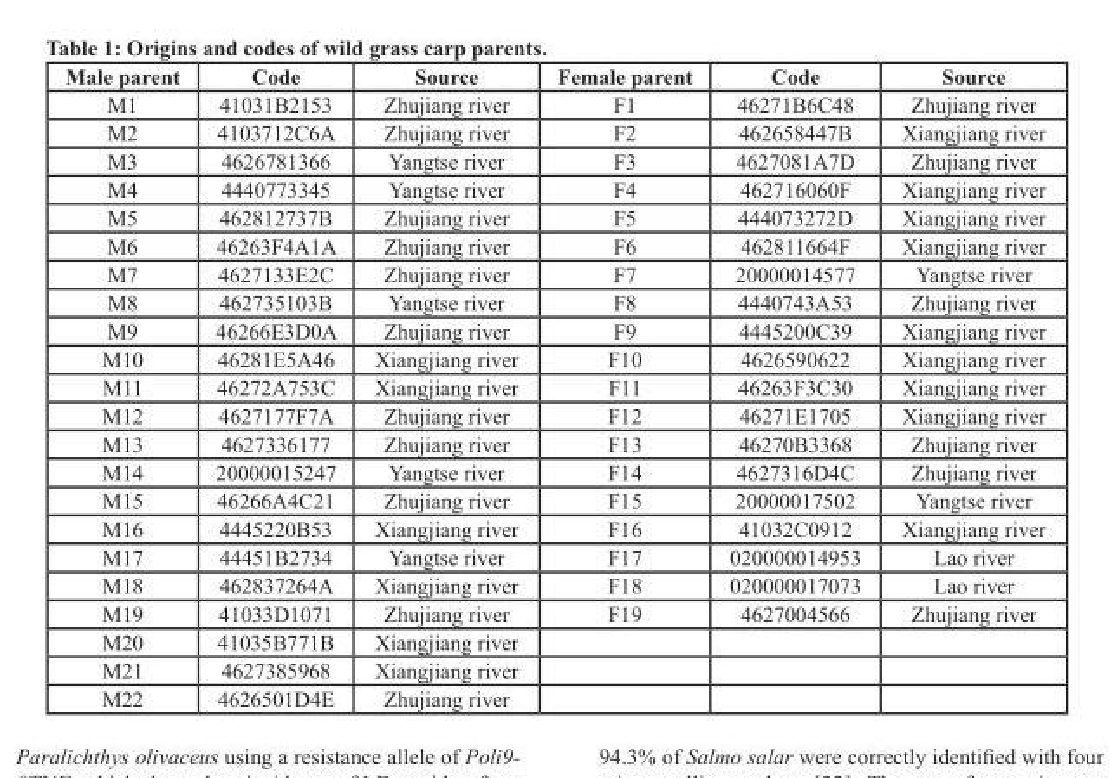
<table><thead><tr><td>Male parent</td><td>Code</td><td>Source</td><td>Female parent</td><td>Code</td><td>Source</td></tr></thead><tbody><tr><td>M1</td><td>41031B2153</td><td>Zhujiang river</td><td>F1</td><td>46271B6C48</td><td>Zhujiang river</td></tr><tr><td>M2</td><td>4103712C6A</td><td>Zhujiang river</td><td>F2</td><td>462658447B</td><td>Xiangjiang river</td></tr><tr><td>M3</td><td>4626781366</td><td>Yangtse river</td><td>F3</td><td>4627081A7D</td><td>Zhujiang river</td></tr><tr><td>M4</td><td>4440773345</td><td>Yangtse river</td><td>F4</td><td>462716060F</td><td>Xiangjiang river</td></tr><tr><td>M5</td><td>462812737B</td><td>Zhujiang river</td><td>F5</td><td>444073272D</td><td>Xiangjiang river</td></tr><tr><td>M6</td><td>46263F4A1A</td><td>Zhujiang river</td><td>F6</td><td>462811664F</td><td>Xiangjiang river</td></tr><tr><td>M7</td><td>4627133E2C</td><td>Zhujiang river</td><td>F7</td><td>20000014577</td><td>Yangtse river</td></tr><tr><td>M8</td><td>462735103B</td><td>Yangtse river</td><td>F8</td><td>4440743A53</td><td>Zhujiang river</td></tr><tr><td>M9</td><td>46266E3D0A</td><td>Zhujiang river</td><td>F9</td><td>4445200C39</td><td>Xiangjiang river</td></tr><tr><td>M10</td><td>46281E5A46</td><td>Xiangjiang river</td><td>F10</td><td>4626590622</td><td>Xiangjiang river</td></tr><tr><td>M11</td><td>46272A753C</td><td>Xiangjiang river</td><td>F11</td><td>46263F3C30</td><td>Xiangjiang river</td></tr><tr><td>M12</td><td>4627177F7A</td><td>Zhujiang river</td><td>F12</td><td>46271E1705</td><td>Xiangjiang river</td></tr><tr><td>M13</td><td>4627336177</td><td>Zhujiang river</td><td>F13</td><td>46270B3368</td><td>Zhujiang river</td></tr><tr><td>M14</td><td>20000015247</td><td>Yangtse river</td><td>F14</td><td>4627316D4C</td><td>Zhujiang river</td></tr><tr><td>M15</td><td>46266A4C21</td><td>Zhujiang river</td><td>F15</td><td>20000017502</td><td>Yangtse river</td></tr><tr><td>M16</td><td>4445220B53</td><td>Xiangjiang river</td><td>F16</td><td>41032C0912</td><td>Xiangjiang river</td></tr><tr><td>M17</td><td>44451B2734</td><td>Yangtse river</td><td>F17</td><td>020000014953</td><td>Lao river</td></tr><tr><td>M18</td><td>462837264A</td><td>Xiangjiang river</td><td>F18</td><td>020000017073</td><td>Lao river</td></tr><tr><td>M19</td><td>41033D1071</td><td>Zhujiang river</td><td>F19</td><td>4627004566</td><td>Zhujiang river</td></tr><tr><td>M20</td><td>41035B771B</td><td>Xiangjiang river</td><td></td><td></td><td></td></tr><tr><td>M21</td><td>4627385968</td><td>Xiangjiang river</td><td></td><td></td><td></td></tr><tr><td>M22</td><td>4626501D4E</td><td>Zhujiang river</td><td></td><td></td><td></td></tr></tbody></table>